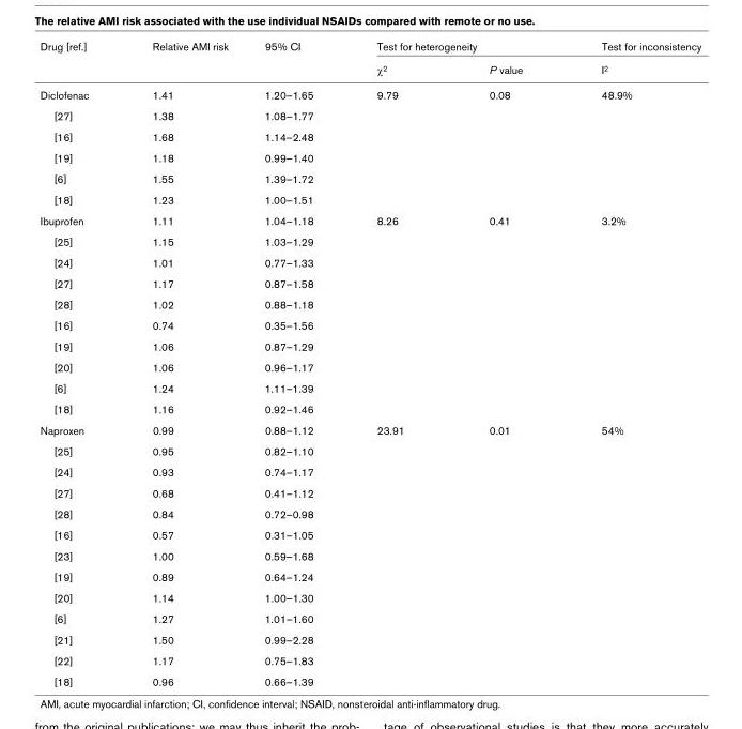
<table><thead><tr><td rowspan="2">Drug [ref.]</td><td rowspan="2">Relative AMI risk</td><td rowspan="2">95% CI</td><td colspan="2">Test for heterogeneity</td><td rowspan="2">Test for inconsistency I2</td></tr><tr><td>χ2</td><td>P value</td></tr></thead><tbody><tr><td>Diclofenac</td><td>1.41</td><td>1.20–1.65</td><td>9.79</td><td>0.08</td><td>48.9%</td></tr><tr><td>[27]</td><td>1.38</td><td>1.08–1.77</td><td></td><td></td><td></td></tr><tr><td>[16]</td><td>1.68</td><td>1.14–2.48</td><td></td><td></td><td></td></tr><tr><td>[19]</td><td>1.18</td><td>0.99–1.40</td><td></td><td></td><td></td></tr><tr><td>[6]</td><td>1.55</td><td>1.39–1.72</td><td></td><td></td><td></td></tr><tr><td>[18]</td><td>1.23</td><td>1.00–1.51</td><td></td><td></td><td></td></tr><tr><td>Ibuprofen</td><td>1.11</td><td>1.04–1.18</td><td>8.26</td><td>0.41</td><td>3.2%</td></tr><tr><td>[25]</td><td>1.15</td><td>1.03–1.29</td><td></td><td></td><td></td></tr><tr><td>[24]</td><td>1.01</td><td>0.77–1.33</td><td></td><td></td><td></td></tr><tr><td>[27]</td><td>1.17</td><td>0.87–1.58</td><td></td><td></td><td></td></tr><tr><td>[28]</td><td>1.02</td><td>0.88–1.18</td><td></td><td></td><td></td></tr><tr><td>[16]</td><td>0.74</td><td>0.35–1.56</td><td></td><td></td><td></td></tr><tr><td>[19]</td><td>1.06</td><td>0.87–1.29</td><td></td><td></td><td></td></tr><tr><td>[20]</td><td>1.06</td><td>0.96–1.17</td><td></td><td></td><td></td></tr><tr><td>[6]</td><td>1.24</td><td>1.11–1.39</td><td></td><td></td><td></td></tr><tr><td>[18]</td><td>1.16</td><td>0.92–1.46</td><td></td><td></td><td></td></tr><tr><td>Naproxen</td><td>0.99</td><td>0.88–1.12</td><td>23.91</td><td>0.01</td><td>54%</td></tr><tr><td>[25]</td><td>0.95</td><td>0.82–1.10</td><td></td><td></td><td></td></tr><tr><td>[24]</td><td>0.93</td><td>0.74–1.17</td><td></td><td></td><td></td></tr><tr><td>[27]</td><td>0.68</td><td>0.41–1.12</td><td></td><td></td><td></td></tr><tr><td>[28]</td><td>0.84</td><td>0.72–0.98</td><td></td><td></td><td></td></tr><tr><td>[16]</td><td>0.57</td><td>0.31–1.05</td><td></td><td></td><td></td></tr><tr><td>[23]</td><td>1.00</td><td>0.59–1.68</td><td></td><td></td><td></td></tr><tr><td>[19]</td><td>0.89</td><td>0.64–1.24</td><td></td><td></td><td></td></tr><tr><td>[20]</td><td>1.14</td><td>1.00–1.30</td><td></td><td></td><td></td></tr><tr><td>[6]</td><td>1.27</td><td>1.01–1.60</td><td></td><td></td><td></td></tr><tr><td>[21]</td><td>1.50</td><td>0.99–2.28</td><td></td><td></td><td></td></tr><tr><td>[22]</td><td>1.17</td><td>0.75–1.83</td><td></td><td></td><td></td></tr><tr><td>[18]</td><td>0.96</td><td>0.66–1.39</td><td></td><td></td><td></td></tr></tbody></table>